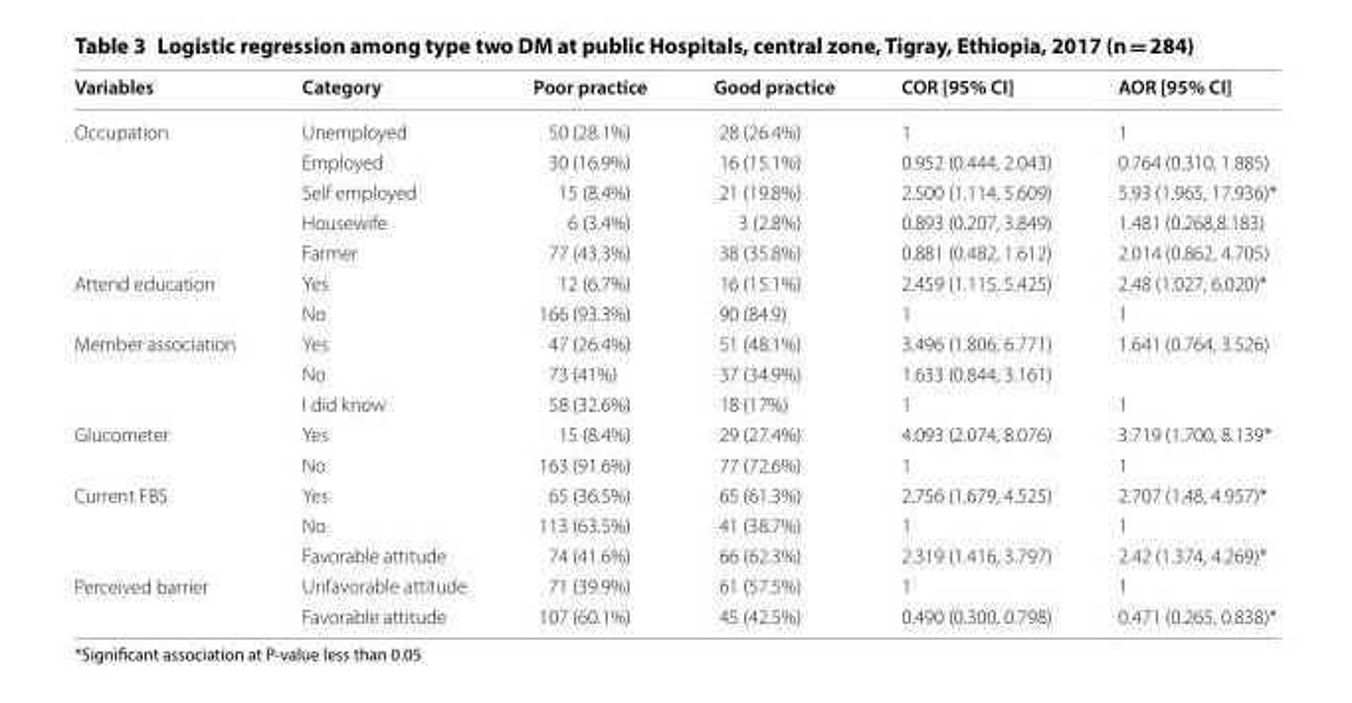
<table><thead><tr><td>Variables</td><td>Category</td><td>Poor practice</td><td>Good practice</td><td>COR [95% CI]</td><td>AOR [95% CI]</td></tr></thead><tbody><tr><td rowspan="5">Occupation</td><td>Unemployed</td><td>50 (28.1%)</td><td>28 (26.4%)</td><td>1</td><td>1</td></tr><tr><td>Employed</td><td>30 (16.9%)</td><td>16 (15.1%)</td><td>0.952 (0.444, 2.043)</td><td>0.764 (0.310, 1.885)</td></tr><tr><td>Self employed</td><td>15 (8.4%)</td><td>21 (19.8%)</td><td>2.500 (1.114, 5.609)</td><td>5.93 (1.965, 17.936)*</td></tr><tr><td>Housewife</td><td>6 (3.4%)</td><td>3 (2.8%)</td><td>0.893 (0.207, 3.849)</td><td>1.481 (0.268,8.183)</td></tr><tr><td>Farmer</td><td>77 (43.3%)</td><td>38 (35.8%)</td><td>0.881 (0.482, 1.612)</td><td>2.014 (0.862, 4.705)</td></tr><tr><td rowspan="2">Attend education</td><td>Yes</td><td>12 (6.7%)</td><td>16 (15.1%)</td><td>2.459 (1.115, 5.425)</td><td>2.48 (1.027, 6.020)*</td></tr><tr><td>No</td><td>166 (93.3%)</td><td>90 (84.9)</td><td>1</td><td>1</td></tr><tr><td rowspan="3">Member association</td><td>Yes</td><td>47 (26.4%)</td><td>51 (48.1%)</td><td>3.496 (1.806, 6.771)</td><td>1.641 (0.764, 3.526)</td></tr><tr><td>No</td><td>73 (41%)</td><td>37 (34.9%)</td><td>1.633 (0.844, 3.161)</td><td></td></tr><tr><td>I did know</td><td>58 (32.6%)</td><td>18 (17%)</td><td>1</td><td>1</td></tr><tr><td rowspan="2">Glucometer</td><td>Yes</td><td>15 (8.4%)</td><td>29 (27.4%)</td><td>4.093 (2.074, 8.076)</td><td>3.719 (1.700, 8.139*</td></tr><tr><td>No</td><td>163 (91.6%)</td><td>77 (72.6%)</td><td>1</td><td>1</td></tr><tr><td rowspan="3">Current FBS</td><td>Yes</td><td>65 (36.5%)</td><td>65 (61.3%)</td><td>2.756 (1.679, 4.525)</td><td>2.707 (1.48, 4.957)*</td></tr><tr><td>No</td><td>113 (63.5%)</td><td>41 (38.7%)</td><td>1</td><td>1</td></tr><tr><td>Favorable attitude</td><td>74 (41.6%)</td><td>66 (62.3%)</td><td>2.319 (1.416, 3.797)</td><td>2.42 (1.374, 4.269)*</td></tr><tr><td rowspan="2">Perceived barrier</td><td>Unfavorable attitude</td><td>71 (39.9%)</td><td>61 (57.5%)</td><td>1</td><td>1</td></tr><tr><td>Favorable attitude</td><td>107 (60.1%)</td><td>45 (42.5%)</td><td>0.490 (0.300, 0.798)</td><td>0.471 (0.265, 0.838)*</td></tr></tbody></table>